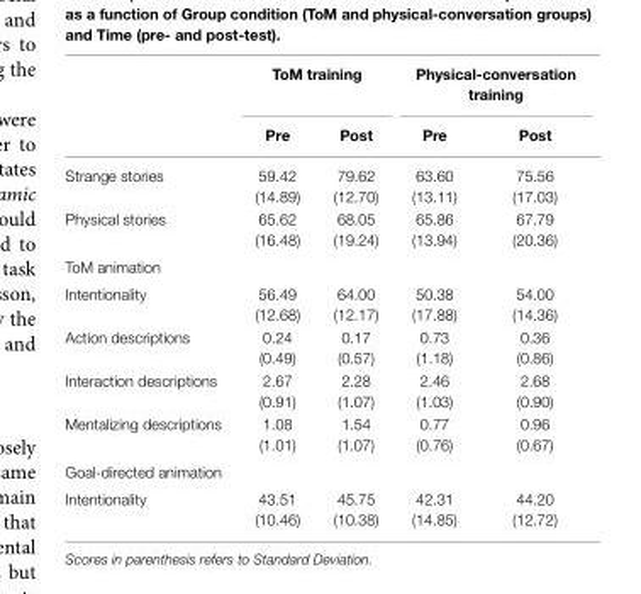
<table><thead><tr><td rowspan="2"></td><td colspan="2">ToM training</td><td colspan="2">Physical-conversation training</td></tr><tr><td>Pre</td><td>Post</td><td>Pre</td><td>Post</td></tr></thead><tbody><tr><td>Strange stories</td><td>59.42 (14.89)</td><td>79.62 (12.70)</td><td>63.60 (13.11)</td><td>75.56 (17.03)</td></tr><tr><td>Physical stories</td><td>65.62 (16.48)</td><td>68.05 (19.24)</td><td>65.86 (13.94)</td><td>67.79 (20.36)</td></tr><tr><td>ToM animation Intentionality</td><td>56.49 (12.68)</td><td>64.00 (12.17)</td><td>50.38 (17.88)</td><td>54.00 (14.36)</td></tr><tr><td>Action descriptions</td><td>0.24 (0.49)</td><td>0.17 (0.57)</td><td>0.73 (1.18)</td><td>0.36 (0.86)</td></tr><tr><td>Interaction descriptions</td><td>2.67 (0.91)</td><td>2.28 (1.07)</td><td>2.46 (1.03)</td><td>2.68 (0.90)</td></tr><tr><td>Mentalizing descriptions</td><td>1.08 (1.01)</td><td>1.54 (1.07)</td><td>0.77 (0.76)</td><td>0.96 (0.67)</td></tr><tr><td>Goal-directed animation Intentionality</td><td>43.51 (10.46)</td><td>45.75 (10.38)</td><td>42.31 (14.85)</td><td>44.20 (12.72)</td></tr></tbody></table>